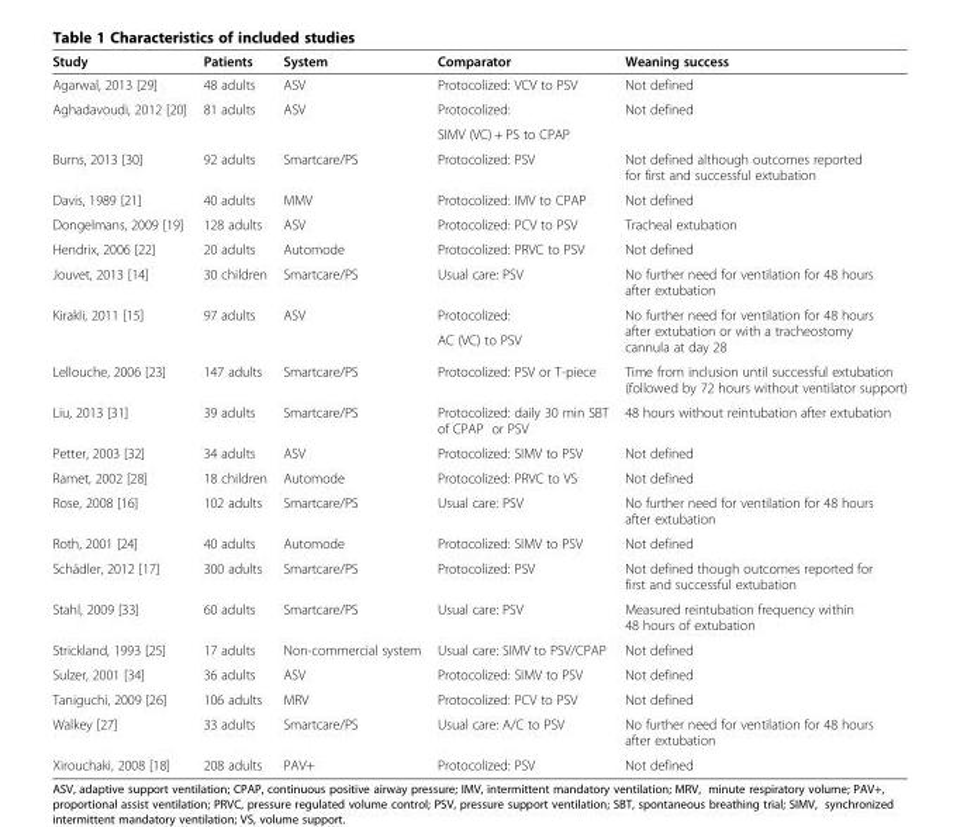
<table><thead><tr><td>Study</td><td>Patients</td><td>System</td><td>Comparator</td><td>Weaning success</td></tr></thead><tbody><tr><td>Agarwal, 2013 [29]</td><td>48 adults</td><td>ASV</td><td>Protocolized: VCV to PSV</td><td>Not defined</td></tr><tr><td rowspan="2">Aghadavoudi, 2012 [20]</td><td rowspan="2">81 adults</td><td rowspan="2">ASV</td><td>Protocolized:</td><td rowspan="2">Not defined</td></tr><tr><td>SIMV (VC) + PS to CPAP</td></tr><tr><td>Burns, 2013 [30]</td><td>92 adults</td><td>Smartcare/PS</td><td>Protocolized: PSV</td><td>Not defined although outcomes reported for first and successful extubation</td></tr><tr><td>Davis, 1989 [21]</td><td>40 adults</td><td>MMV</td><td>Protocolized: IMV to CPAP</td><td>Not defined</td></tr><tr><td>Dongelmans, 2009 [19]</td><td>128 adults</td><td>ASV</td><td>Protocolized: PCV to PSV</td><td>Tracheal extubation</td></tr><tr><td>Hendrix, 2006 [22]</td><td>20 adults</td><td>Automode</td><td>Protocolized: PRVC to PSV</td><td>Not defined</td></tr><tr><td>Jouvet, 2013 [14]</td><td>30 children</td><td>Smartcare/PS</td><td>Usual care: PSV</td><td>No further need for ventilation for 48 hours after extubation</td></tr><tr><td rowspan="2">Kirakli, 2011 [15]</td><td rowspan="2">97 adults</td><td rowspan="2">ASV</td><td>Protocolized:</td><td rowspan="2">No further need for ventilation for 48 hours after extubation or with a tracheostomy cannula at day 28</td></tr><tr><td>AC (VC) to PSV</td></tr><tr><td>Lellouche, 2006 [23]</td><td>147 adults</td><td>Smartcare/PS</td><td>Protocolized: PSV or T-piece</td><td>Time from inclusion until successful extubation (followed by 72 hours without ventilator support)</td></tr><tr><td>Liu, 2013 [31]</td><td>39 adults</td><td>Smartcare/PS</td><td>Protocolized: daily 30 min SBT of CPAP or PSV</td><td>48 hours without reintubation after extubation</td></tr><tr><td>Petter, 2003 [32]</td><td>34 adults</td><td>ASV</td><td>Protocolized: SIMV to PSV</td><td>Not defined</td></tr><tr><td>Ramet, 2002 [28]</td><td>18 children</td><td>Automode</td><td>Protocolized: PRVC to VS</td><td>Not defined</td></tr><tr><td>Rose, 2008 [16]</td><td>102 adults</td><td>Smartcare/PS</td><td>Usual care: PSV</td><td>No further need for ventilation for 48 hours after extubation</td></tr><tr><td>Roth, 2001 [24]</td><td>40 adults</td><td>Automode</td><td>Protocolized: SIMV to PSV</td><td>Not defined</td></tr><tr><td>Schädler, 2012 [17]</td><td>300 adults</td><td>Smartcare/PS</td><td>Protocolized: PSV</td><td>Not defined though outcomes reported for first and successful extubation</td></tr><tr><td>Stahl, 2009 [33]</td><td>60 adults</td><td>Smartcare/PS</td><td>Usual care: PSV</td><td>Measured reintubation frequency within 48 hours of extubation</td></tr><tr><td>Strickland, 1993 [25]</td><td>17 adults</td><td>Non-commercial system</td><td>Usual care: SIMV to PSV/CPAP</td><td>Not defined</td></tr><tr><td>Sulzer, 2001 [34]</td><td>36 adults</td><td>ASV</td><td>Protocolized: SIMV to PSV</td><td>Not defined</td></tr><tr><td>Taniguchi, 2009 [26]</td><td>106 adults</td><td>MRV</td><td>Protocolized: PCV to PSV</td><td>Not defined</td></tr><tr><td>Walkey [27]</td><td>33 adults</td><td>Smartcare/PS</td><td>Usual care: A/C to PSV</td><td>No further need for ventilation for 48 hours after extubation</td></tr><tr><td>Xirouchaki, 2008 [18]</td><td>208 adults</td><td>PAV+</td><td>Protocolized: PSV</td><td>Not defined</td></tr></tbody></table>